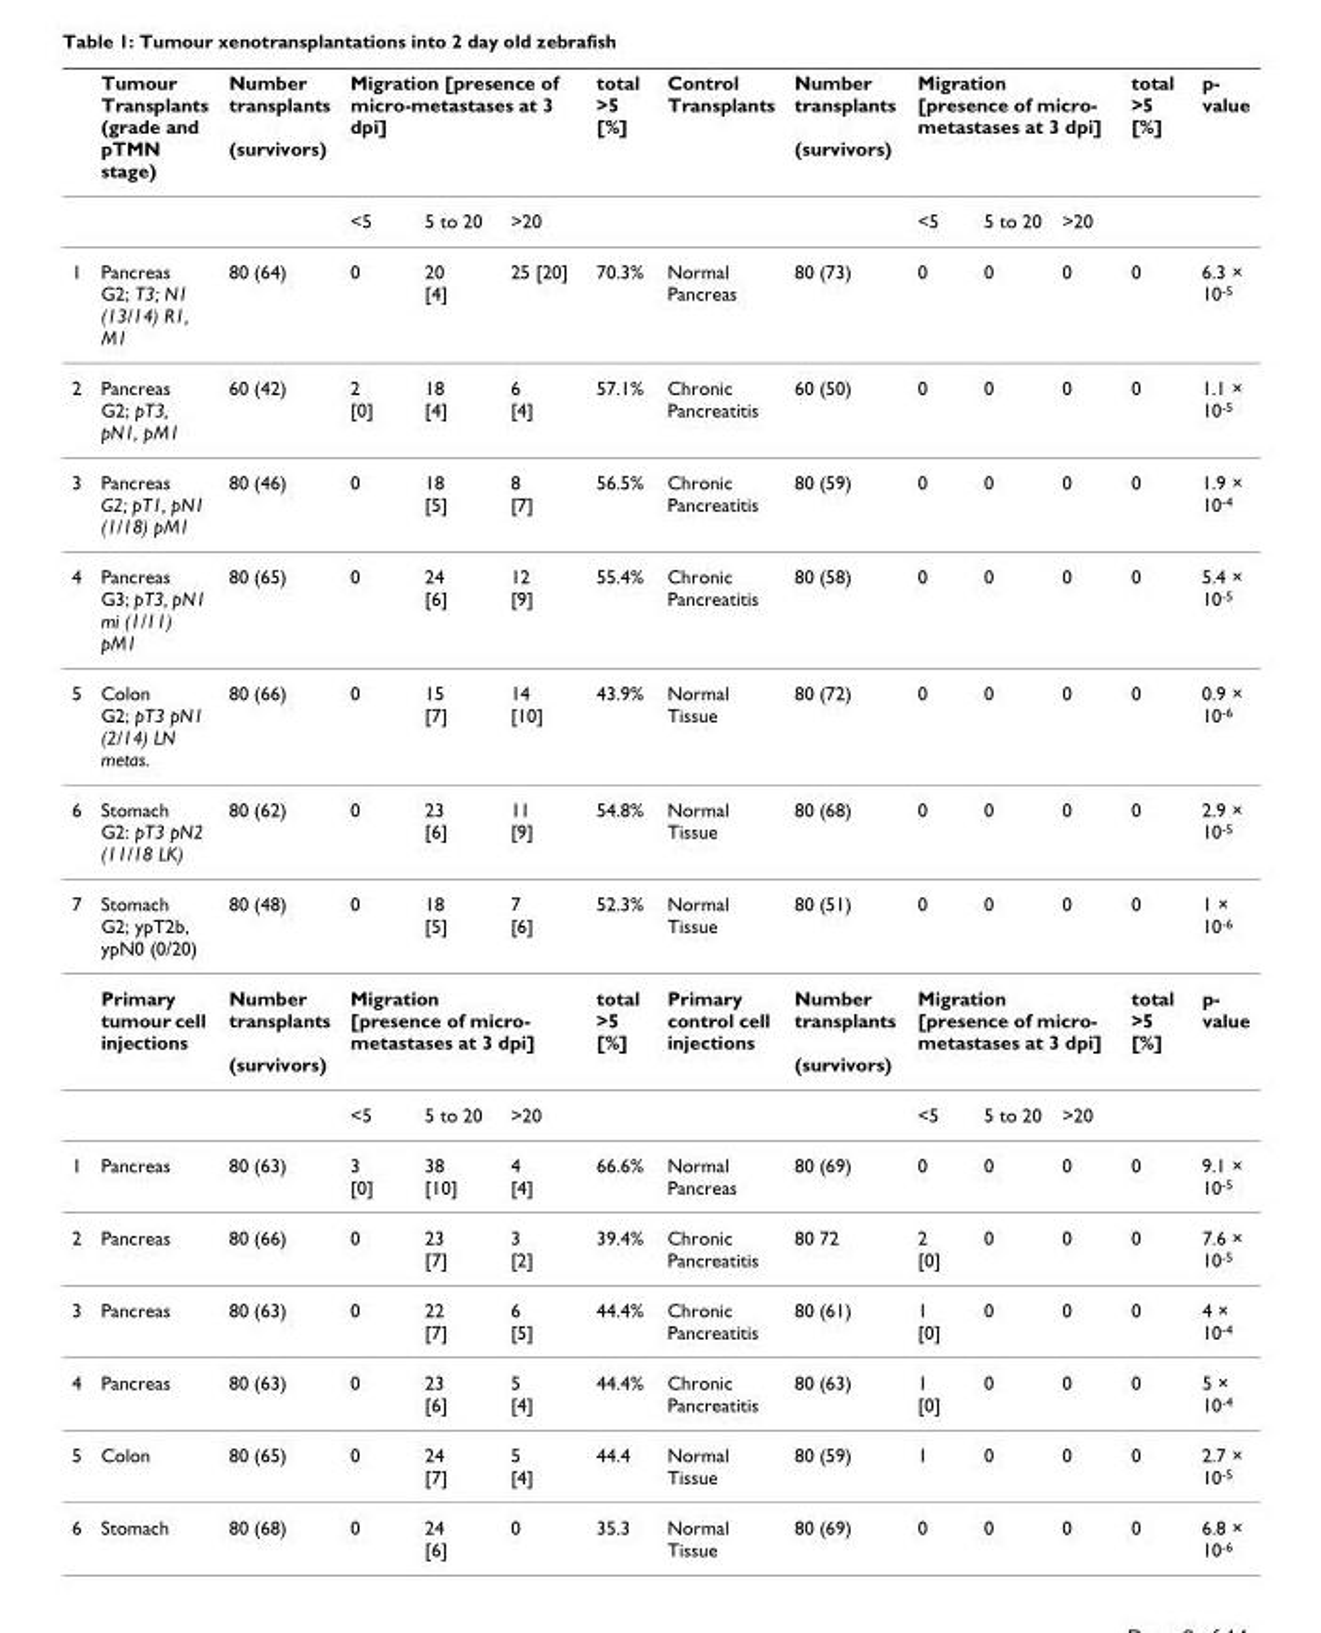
<table><thead><tr><td rowspan="2"></td><td rowspan="2">Tumour Transplants (grade and pTMN stage)</td><td rowspan="2">Number transplants (survivors)</td><td colspan="3">Migration [presence of micro-metastases at 3 dpi]</td><td rowspan="2">total &gt;5 [%]</td><td rowspan="2">Control Transplants</td><td rowspan="2">Number transplants (survivors)</td><td colspan="3">Migration [presence of micro- metastases at 3 dpi]</td><td rowspan="2">total &gt;5 [%]</td><td rowspan="2">p- value</td></tr><tr><td>&lt;5</td><td>5 to 20</td><td>&gt;20</td><td>&lt;5</td><td>5 to 20</td><td>&gt;20</td></tr></thead><tbody><tr><td>1</td><td>Pancreas G2; T3; N1 (13/14) R1, M1</td><td>80 (64)</td><td>0</td><td>20 [4]</td><td>25 [20]</td><td>70.3%</td><td>Normal Pancreas</td><td>80 (73)</td><td>0</td><td>0</td><td>0</td><td>0</td><td>6.3 × 10<sup>-5</sup></td></tr><tr><td>2</td><td>Pancreas G2; pT3, pN1, pM1</td><td>60 (42)</td><td>2 [0]</td><td>18 [4]</td><td>6 [4]</td><td>57.1%</td><td>Chronic Pancreatitis</td><td>60 (50)</td><td>0</td><td>0</td><td>0</td><td>0</td><td>1.1 × 10<sup>-5</sup></td></tr><tr><td>3</td><td>Pancreas G2; pT1, pN1 (1/18) pM1</td><td>80 (46)</td><td>0</td><td>18 [5]</td><td>8 [7]</td><td>56.5%</td><td>Chronic Pancreatitis</td><td>80 (59)</td><td>0</td><td>0</td><td>0</td><td>0</td><td>1.9 × 10<sup>-4</sup></td></tr><tr><td>4</td><td>Pancreas G3; pT3, pN1 mi (1/11) pM1</td><td>80 (65)</td><td>0</td><td>24 [6]</td><td>12 [9]</td><td>55.4%</td><td>Chronic Pancreatitis</td><td>80 (58)</td><td>0</td><td>0</td><td>0</td><td>0</td><td>5.4 × 10<sup>-5</sup></td></tr><tr><td>5</td><td>Colon G2; pT3 pN1 (2/14) LN metas.</td><td>80 (66)</td><td>0</td><td>15 [7]</td><td>14 [10]</td><td>43.9%</td><td>Normal Tissue</td><td>80 (72)</td><td>0</td><td>0</td><td>0</td><td>0</td><td>0.9 × 10<sup>-6</sup></td></tr><tr><td>6</td><td>Stomach G2: pT3 pN2 (11/18 LK)</td><td>80 (62)</td><td>0</td><td>23 [6]</td><td>11 [9]</td><td>54.8%</td><td>Normal Tissue</td><td>80 (68)</td><td>0</td><td>0</td><td>0</td><td>0</td><td>2.9 × 10<sup>-5</sup></td></tr><tr><td rowspan="3">7</td><td>Stomach G2; ypT2b, ypN0 (0/20)</td><td>80 (48)</td><td>0</td><td>18 [5]</td><td>7 [6]</td><td>52.3%</td><td>Normal Tissue</td><td>80 (51)</td><td>0</td><td>0</td><td>0</td><td>0</td><td>1 × 10<sup>-6</sup></td></tr><tr><td>Primary tumour cell injections</td><td>Number transplants (survivors)</td><td colspan="3">Migration [presence of micro- metastases at 3 dpi]</td><td>total &gt;5 [%]</td><td>Primary control cell injections</td><td>Number transplants (survivors)</td><td colspan="3">Migration [presence of micro- metastases at 3 dpi]</td><td>total &gt;5 [%]</td><td>p- value</td></tr><tr><td></td><td></td><td>&lt;5</td><td>5 to 20</td><td>&gt;20</td><td></td><td></td><td></td><td>&lt;5</td><td>5 to 20</td><td>&gt;20</td><td></td><td></td></tr><tr><td>1</td><td>Pancreas</td><td>80 (63)</td><td>3 [0]</td><td>38 [10]</td><td>4 [4]</td><td>66.6%</td><td>Normal Pancreas</td><td>80 (69)</td><td>0</td><td>0</td><td>0</td><td>0</td><td>9.1 × 10<sup>-5</sup></td></tr><tr><td>2</td><td>Pancreas</td><td>80 (66)</td><td>0</td><td>23 [7]</td><td>3 [2]</td><td>39.4%</td><td>Chronic Pancreatitis</td><td>80 72</td><td>2 [0]</td><td>0</td><td>0</td><td>0</td><td>7.6 × 10<sup>-5</sup></td></tr><tr><td>3</td><td>Pancreas</td><td>80 (63)</td><td>0</td><td>22 [7]</td><td>6 [5]</td><td>44.4%</td><td>Chronic Pancreatitis</td><td>80 (61)</td><td>1 [0]</td><td>0</td><td>0</td><td>0</td><td>4 × 10<sup>-4</sup></td></tr><tr><td>4</td><td>Pancreas</td><td>80 (63)</td><td>0</td><td>23 [6]</td><td>5 [4]</td><td>44.4%</td><td>Chronic Pancreatitis</td><td>80 (63)</td><td>1 [0]</td><td>0</td><td>0</td><td>0</td><td>5 × 10<sup>-4</sup></td></tr><tr><td>5</td><td>Colon</td><td>80 (65)</td><td>0</td><td>24 [7]</td><td>5 [4]</td><td>44.4</td><td>Normal Tissue</td><td>80 (59)</td><td>1</td><td>0</td><td>0</td><td>0</td><td>2.7 × 10<sup>-5</sup></td></tr><tr><td>6</td><td>Stomach</td><td>80 (68)</td><td>0</td><td>24 [6]</td><td>0</td><td>35.3</td><td>Normal Tissue</td><td>80 (69)</td><td>0</td><td>0</td><td>0</td><td>0</td><td>6.8 × 10<sup>-6</sup></td></tr></tbody></table>